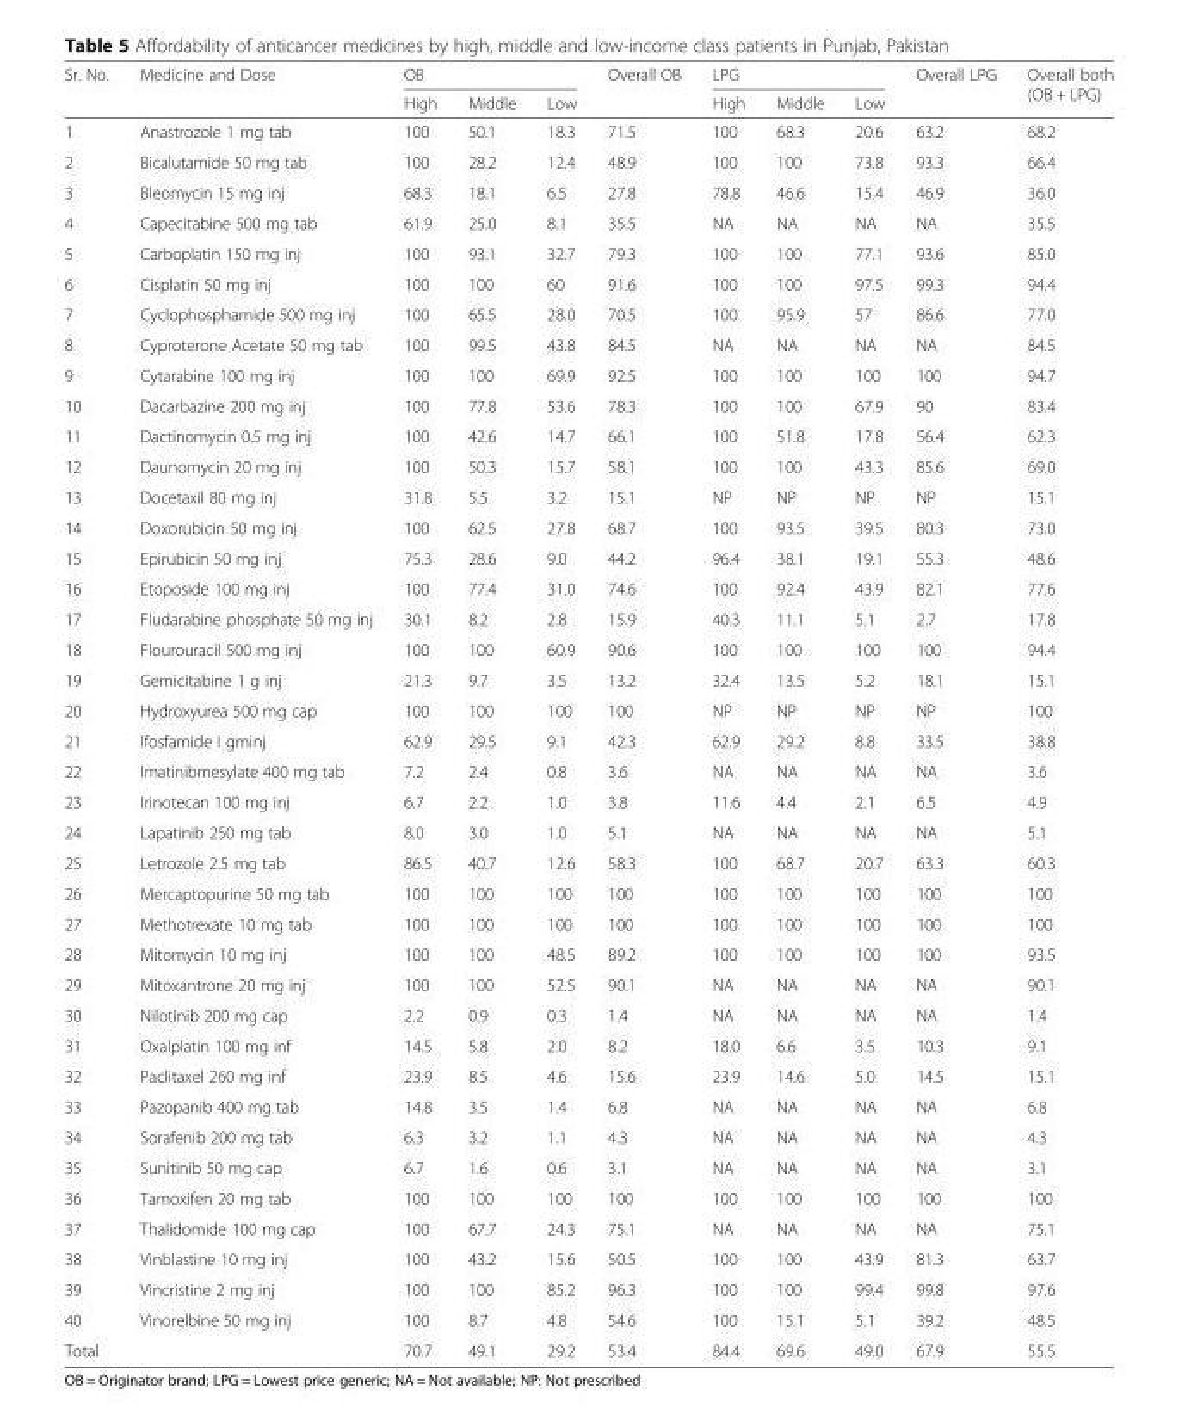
<table><thead><tr><td rowspan="2">Sr. No.</td><td rowspan="2">Medicine and Dose</td><td colspan="3">OB</td><td rowspan="2">Overall OB</td><td colspan="3">LPG</td><td rowspan="2">Overall LPG</td><td rowspan="2">Overall both (OB + LPG)</td></tr><tr><td>High</td><td>Middle</td><td>Low</td><td>High</td><td>Middle</td><td>Low</td></tr></thead><tbody><tr><td>1</td><td>Anastrozole 1 mg tab</td><td>100</td><td>50.1</td><td>18.3</td><td>71.5</td><td>100</td><td>68.3</td><td>20.6</td><td>63.2</td><td>68.2</td></tr><tr><td>2</td><td>Bicalutamide 50 mg tab</td><td>100</td><td>28.2</td><td>12.4</td><td>48.9</td><td>100</td><td>100</td><td>73.8</td><td>93.3</td><td>66.4</td></tr><tr><td>3</td><td>Bleomycin 15 mg inj</td><td>68.3</td><td>18.1</td><td>6.5</td><td>27.8</td><td>78.8</td><td>46.6</td><td>15.4</td><td>46.9</td><td>36.0</td></tr><tr><td>4</td><td>Capecitabine 500 mg tab</td><td>61.9</td><td>25.0</td><td>8.1</td><td>35.5</td><td>NA</td><td>NA</td><td>NA</td><td>NA</td><td>35.5</td></tr><tr><td>5</td><td>Carboplatin 150 mg inj</td><td>100</td><td>93.1</td><td>32.7</td><td>79.3</td><td>100</td><td>100</td><td>77.1</td><td>93.6</td><td>85.0</td></tr><tr><td>6</td><td>Cisplatin 50 mg inj</td><td>100</td><td>100</td><td>60</td><td>91.6</td><td>100</td><td>100</td><td>97.5</td><td>99.3</td><td>94.4</td></tr><tr><td>7</td><td>Cyclophosphamide 500 mg inj</td><td>100</td><td>65.5</td><td>28.0</td><td>70.5</td><td>100</td><td>95.9</td><td>57</td><td>86.6</td><td>77.0</td></tr><tr><td>8</td><td>Cyproterone Acetate 50 mg tab</td><td>100</td><td>99.5</td><td>43.8</td><td>84.5</td><td>NA</td><td>NA</td><td>NA</td><td>NA</td><td>84.5</td></tr><tr><td>9</td><td>Cytarabine 100 mg inj</td><td>100</td><td>100</td><td>69.9</td><td>92.5</td><td>100</td><td>100</td><td>100</td><td>100</td><td>94.7</td></tr><tr><td>10</td><td>Dacarbazine 200 mg inj</td><td>100</td><td>77.8</td><td>53.6</td><td>78.3</td><td>100</td><td>100</td><td>67.9</td><td>90</td><td>83.4</td></tr><tr><td>11</td><td>Dactinomycin 0.5 mg inj</td><td>100</td><td>42.6</td><td>14.7</td><td>66.1</td><td>100</td><td>51.8</td><td>17.8</td><td>56.4</td><td>62.3</td></tr><tr><td>12</td><td>Daunomycin 20 mg inj</td><td>100</td><td>50.3</td><td>15.7</td><td>58.1</td><td>100</td><td>100</td><td>43.3</td><td>85.6</td><td>69.0</td></tr><tr><td>13</td><td>Docetaxil 80 mg inj</td><td>31.8</td><td>5.5</td><td>3.2</td><td>15.1</td><td>NP</td><td>NP</td><td>NP</td><td>NP</td><td>15.1</td></tr><tr><td>14</td><td>Doxorubicin 50 mg inj</td><td>100</td><td>62.5</td><td>27.8</td><td>68.7</td><td>100</td><td>93.5</td><td>39.5</td><td>80.3</td><td>73.0</td></tr><tr><td>15</td><td>Epirubicin 50 mg inj</td><td>75.3</td><td>28.6</td><td>9.0</td><td>44.2</td><td>96.4</td><td>38.1</td><td>19.1</td><td>55.3</td><td>48.6</td></tr><tr><td>16</td><td>Etoposide 100 mg inj</td><td>100</td><td>77.4</td><td>31.0</td><td>74.6</td><td>100</td><td>92.4</td><td>43.9</td><td>82.1</td><td>77.6</td></tr><tr><td>17</td><td>Fludarabine phosphate 50 mg inj</td><td>30.1</td><td>8.2</td><td>2.8</td><td>15.9</td><td>40.3</td><td>11.1</td><td>5.1</td><td>2.7</td><td>17.8</td></tr><tr><td>18</td><td>Flourouracil 500 mg inj</td><td>100</td><td>100</td><td>60.9</td><td>90.6</td><td>100</td><td>100</td><td>100</td><td>100</td><td>94.4</td></tr><tr><td>19</td><td>Gemicitabine 1 g inj</td><td>21.3</td><td>9.7</td><td>3.5</td><td>13.2</td><td>32.4</td><td>13.5</td><td>5.2</td><td>18.1</td><td>15.1</td></tr><tr><td>20</td><td>Hydroxyurea 500 mg cap</td><td>100</td><td>100</td><td>100</td><td>100</td><td>NP</td><td>NP</td><td>NP</td><td>NP</td><td>100</td></tr><tr><td>21</td><td>Ifosfamide I gminj</td><td>62.9</td><td>29.5</td><td>9.1</td><td>42.3</td><td>62.9</td><td>29.2</td><td>8.8</td><td>33.5</td><td>38.8</td></tr><tr><td>22</td><td>Imatinibmesylate 400 mg tab</td><td>7.2</td><td>2.4</td><td>0.8</td><td>3.6</td><td>NA</td><td>NA</td><td>NA</td><td>NA</td><td>3.6</td></tr><tr><td>23</td><td>Irinotecan 100 mg inj</td><td>6.7</td><td>2.2</td><td>1.0</td><td>3.8</td><td>11.6</td><td>4.4</td><td>2.1</td><td>6.5</td><td>4.9</td></tr><tr><td>24</td><td>Lapatinib 250 mg tab</td><td>8.0</td><td>3.0</td><td>1.0</td><td>5.1</td><td>NA</td><td>NA</td><td>NA</td><td>NA</td><td>5.1</td></tr><tr><td>25</td><td>Letrozole 2.5 mg tab</td><td>86.5</td><td>40.7</td><td>12.6</td><td>58.3</td><td>100</td><td>68.7</td><td>20.7</td><td>63.3</td><td>60.3</td></tr><tr><td>26</td><td>Mercaptopurine 50 mg tab</td><td>100</td><td>100</td><td>100</td><td>100</td><td>100</td><td>100</td><td>100</td><td>100</td><td>100</td></tr><tr><td>27</td><td>Methotrexate 10 mg tab</td><td>100</td><td>100</td><td>100</td><td>100</td><td>100</td><td>100</td><td>100</td><td>100</td><td>100</td></tr><tr><td>28</td><td>Mitomycin 10 mg inj</td><td>100</td><td>100</td><td>48.5</td><td>89.2</td><td>100</td><td>100</td><td>100</td><td>100</td><td>93.5</td></tr><tr><td>29</td><td>Mitoxantrone 20 mg inj</td><td>100</td><td>100</td><td>52.5</td><td>90.1</td><td>NA</td><td>NA</td><td>NA</td><td>NA</td><td>90.1</td></tr><tr><td>30</td><td>Nilotinib 200 mg cap</td><td>2.2</td><td>0.9</td><td>0.3</td><td>1.4</td><td>NA</td><td>NA</td><td>NA</td><td>NA</td><td>1.4</td></tr><tr><td>31</td><td>Oxalplatin 100 mg inf</td><td>14.5</td><td>5.8</td><td>2.0</td><td>8.2</td><td>18.0</td><td>6.6</td><td>3.5</td><td>10.3</td><td>9.1</td></tr><tr><td>32</td><td>Paclitaxel 260 mg inf</td><td>23.9</td><td>8.5</td><td>4.6</td><td>15.6</td><td>23.9</td><td>14.6</td><td>5.0</td><td>14.5</td><td>15.1</td></tr><tr><td>33</td><td>Pazopanib 400 mg tab</td><td>14.8</td><td>3.5</td><td>1.4</td><td>6.8</td><td>NA</td><td>NA</td><td>NA</td><td>NA</td><td>6.8</td></tr><tr><td>34</td><td>Sorafenib 200 mg tab</td><td>6.3</td><td>3.2</td><td>1.1</td><td>4.3</td><td>NA</td><td>NA</td><td>NA</td><td>NA</td><td>4.3</td></tr><tr><td>35</td><td>Sunitinib 50 mg cap</td><td>6.7</td><td>1.6</td><td>0.6</td><td>3.1</td><td>NA</td><td>NA</td><td>NA</td><td>NA</td><td>3.1</td></tr><tr><td>36</td><td>Tamoxifen 20 mg tab</td><td>100</td><td>100</td><td>100</td><td>100</td><td>100</td><td>100</td><td>100</td><td>100</td><td>100</td></tr><tr><td>37</td><td>Thalidomide 100 mg cap</td><td>100</td><td>67.7</td><td>24.3</td><td>75.1</td><td>NA</td><td>NA</td><td>NA</td><td>NA</td><td>75.1</td></tr><tr><td>38</td><td>Vinblastine 10 mg inj</td><td>100</td><td>43.2</td><td>15.6</td><td>50.5</td><td>100</td><td>100</td><td>43.9</td><td>81.3</td><td>63.7</td></tr><tr><td>39</td><td>Vincristine 2 mg inj</td><td>100</td><td>100</td><td>85.2</td><td>96.3</td><td>100</td><td>100</td><td>99.4</td><td>99.8</td><td>97.6</td></tr><tr><td>40</td><td>Vinorelbine 50 mg inj</td><td>100</td><td>8.7</td><td>4.8</td><td>54.6</td><td>100</td><td>15.1</td><td>5.1</td><td>39.2</td><td>48.5</td></tr><tr><td colspan="2">Total</td><td>70.7</td><td>49.1</td><td>29.2</td><td>53.4</td><td>84.4</td><td>69.6</td><td>49.0</td><td>67.9</td><td>55.5</td></tr></tbody></table>